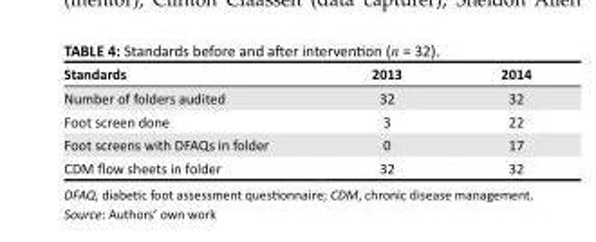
<table><thead><tr><td>Standards</td><td>2013</td><td>2014</td></tr></thead><tbody><tr><td>Number of folders audited</td><td>32</td><td>32</td></tr><tr><td>Foot screen done</td><td>3</td><td>22</td></tr><tr><td>Foot screens with DFAQs in folder</td><td>0</td><td>17</td></tr><tr><td>CDM flow sheets in folder</td><td>32</td><td>32</td></tr></tbody></table>